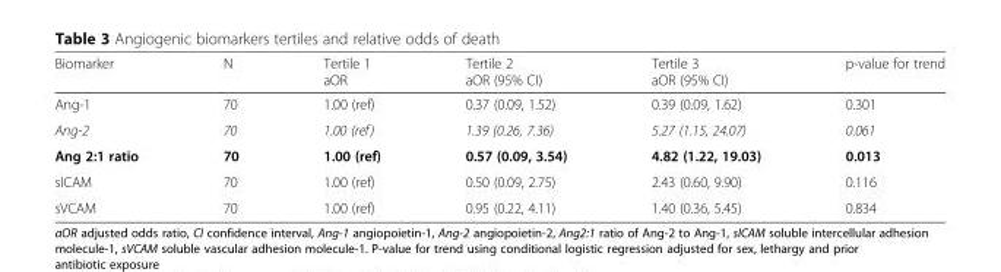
<table><thead><tr><td>Biomarker</td><td>N</td><td>Tertile 1 aOR</td><td>Tertile 2 aOR (95% CI)</td><td>Tertile 3 aOR (95% CI)</td><td>p-value for trend</td></tr></thead><tbody><tr><td>Ang-1</td><td>70</td><td>1.00 (ref)</td><td>0.37 (0.09, 1.52)</td><td>0.39 (0.09, 1.62)</td><td>0.301</td></tr><tr><td>Ang-2</td><td>70</td><td>1.00 (ref)</td><td>1.39 (0.26, 7.36)</td><td>5.27 (1.15, 24.07)</td><td>0.061</td></tr><tr><td>Ang 2:1 ratio</td><td>70</td><td>1.00 (ref)</td><td>0.57 (0.09, 3.54)</td><td>4.82 (1.22, 19.03)</td><td>0.013</td></tr><tr><td>sICAM</td><td>70</td><td>1.00 (ref)</td><td>0.50 (0.09, 2.75)</td><td>2.43 (0.60, 9.90)</td><td>0.116</td></tr><tr><td>sVCAM</td><td>70</td><td>1.00 (ref)</td><td>0.95 (0.22, 4.11)</td><td>1.40 (0.36, 5.45)</td><td>0.834</td></tr></tbody></table>